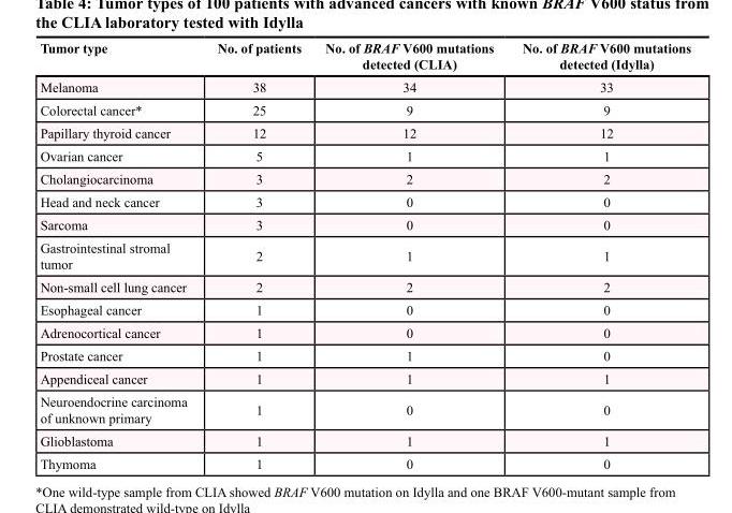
<table><thead><tr><td>Tumor type</td><td>No. of patients</td><td>No. of BRAF V600 mutations detected (CLIA)</td><td>No. of BRAF V600 mutations detected (Idylla)</td></tr></thead><tbody><tr><td>Melanoma</td><td>38</td><td>34</td><td>33</td></tr><tr><td>Colorectal cancer*</td><td>25</td><td>9</td><td>9</td></tr><tr><td>Papillary thyroid cancer</td><td>12</td><td>12</td><td>12</td></tr><tr><td>Ovarian cancer</td><td>5</td><td>1</td><td>1</td></tr><tr><td>Cholangiocarcinoma</td><td>3</td><td>2</td><td>2</td></tr><tr><td>Head and neck cancer</td><td>3</td><td>0</td><td>0</td></tr><tr><td>Sarcoma</td><td>3</td><td>0</td><td>0</td></tr><tr><td>Gastrointestinal stromal tumor</td><td>2</td><td>1</td><td>1</td></tr><tr><td>Non-small cell lung cancer</td><td>2</td><td>2</td><td>2</td></tr><tr><td>Esophageal cancer</td><td>1</td><td>0</td><td>0</td></tr><tr><td>Adrenocortical cancer</td><td>1</td><td>0</td><td>0</td></tr><tr><td>Prostate cancer</td><td>1</td><td>1</td><td>0</td></tr><tr><td>Appendiceal cancer</td><td>1</td><td>1</td><td>1</td></tr><tr><td>Neuroendocrine carcinoma of unknown primary</td><td>1</td><td>0</td><td>0</td></tr><tr><td>Glioblastoma</td><td>1</td><td>1</td><td>1</td></tr><tr><td>Thymoma</td><td>1</td><td>0</td><td>0</td></tr></tbody></table>